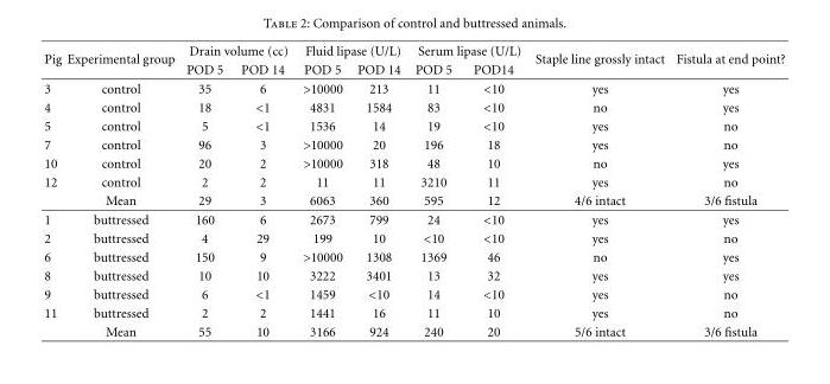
<table><thead><tr><td rowspan="2">Pig</td><td rowspan="2">Experimental group</td><td colspan="2">Drain volume (cc)</td><td colspan="2">Fluid lipase (U/L)</td><td colspan="2">Serum lipase (U/L)</td><td rowspan="2">Staple line grossly intact</td><td rowspan="2">Fistula at end point?</td></tr><tr><td>POD 5</td><td>POD 14</td><td>POD 5</td><td>POD 14</td><td>POD 5</td><td>POD14</td></tr></thead><tbody><tr><td>3</td><td>control</td><td>35</td><td>6</td><td>&gt;10000</td><td>213</td><td>11</td><td>&lt;10</td><td>yes</td><td>yes</td></tr><tr><td>4</td><td>control</td><td>18</td><td>&lt;1</td><td>4831</td><td>1584</td><td>83</td><td>&lt;10</td><td>no</td><td>yes</td></tr><tr><td>5</td><td>control</td><td>5</td><td>&lt;1</td><td>1536</td><td>14</td><td>19</td><td>&lt;10</td><td>yes</td><td>no</td></tr><tr><td>7</td><td>control</td><td>96</td><td>3</td><td>&gt;10000</td><td>20</td><td>196</td><td>18</td><td>yes</td><td>no</td></tr><tr><td>10</td><td>control</td><td>20</td><td>2</td><td>&gt;10000</td><td>318</td><td>48</td><td>10</td><td>no</td><td>yes</td></tr><tr><td rowspan="2">12</td><td>control</td><td>2</td><td>2</td><td>11</td><td>11</td><td>3210</td><td>11</td><td>yes</td><td>no</td></tr><tr><td>Mean</td><td>29</td><td>3</td><td>6063</td><td>360</td><td>595</td><td>12</td><td>4/6 intact</td><td>3/6 fistula</td></tr><tr><td>1</td><td>buttressed</td><td>160</td><td>6</td><td>2673</td><td>799</td><td>24</td><td>&lt;10</td><td>yes</td><td>yes</td></tr><tr><td>2</td><td>buttressed</td><td>4</td><td>29</td><td>199</td><td>10</td><td>&lt;10</td><td>&lt;10</td><td>yes</td><td>no</td></tr><tr><td>6</td><td>buttressed</td><td>150</td><td>9</td><td>&gt;10000</td><td>1308</td><td>1369</td><td>46</td><td>no</td><td>yes</td></tr><tr><td>8</td><td>buttressed</td><td>10</td><td>10</td><td>3222</td><td>3401</td><td>13</td><td>32</td><td>yes</td><td>yes</td></tr><tr><td>9</td><td>buttressed</td><td>6</td><td>&lt;1</td><td>1459</td><td>&lt;10</td><td>14</td><td>&lt;10</td><td>yes</td><td>no</td></tr><tr><td rowspan="2">11</td><td>buttressed</td><td>2</td><td>2</td><td>1441</td><td>16</td><td>11</td><td>10</td><td>yes</td><td>no</td></tr><tr><td>Mean</td><td>55</td><td>10</td><td>3166</td><td>924</td><td>240</td><td>20</td><td>5/6 intact</td><td>3/6 fistula</td></tr></tbody></table>